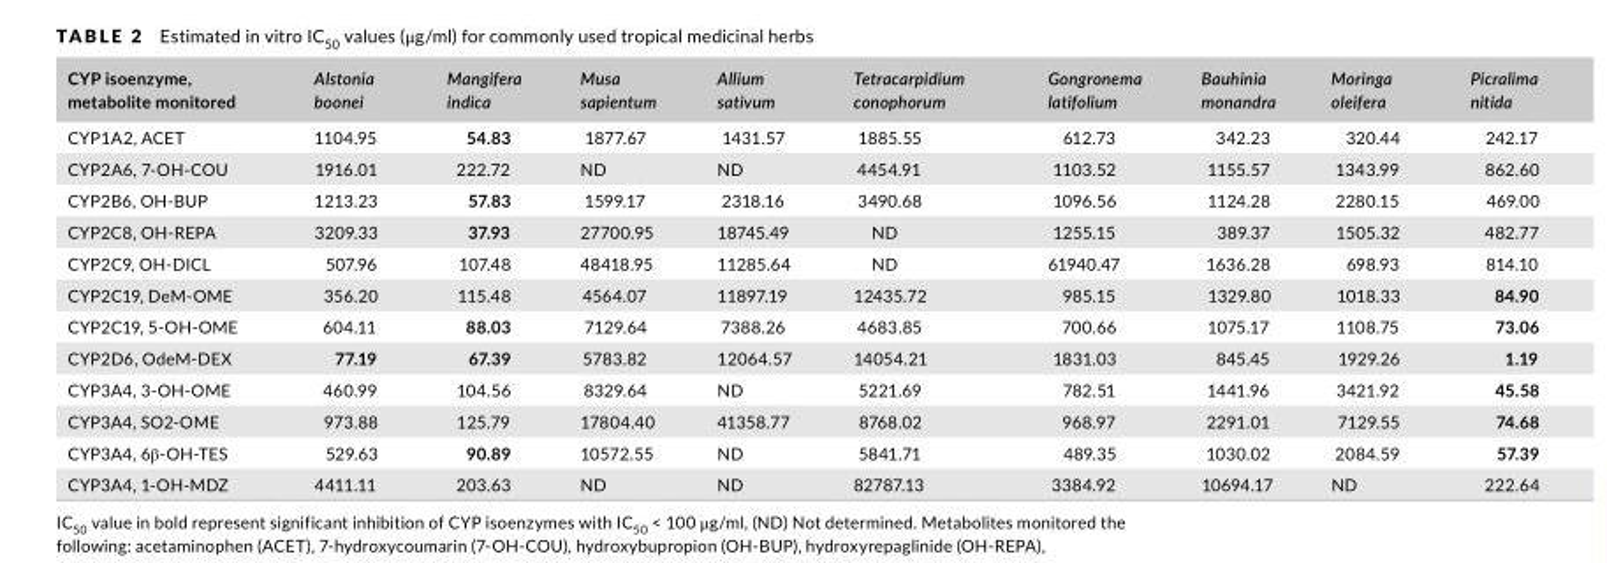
<table><thead><tr><td>CYP isoenzyme, metabolite monitored</td><td>Alstonia boonei</td><td>Mangifera indica</td><td>Musa sapientum</td><td>Allium sativum</td><td>Tetracarpidium conophorum</td><td>Gongronema latifolium</td><td>Bauhinia monandra</td><td>Moringa oleifera</td><td>Picralima nitida</td></tr></thead><tbody><tr><td>CYP1A2, ACET</td><td>1104.95</td><td>54.83</td><td>1877.67</td><td>1431.57</td><td>1885.55</td><td>612.73</td><td>342.23</td><td>320.44</td><td>242.17</td></tr><tr><td>CYP2A6, 7- OH- COU</td><td>1916.01</td><td>222.72</td><td>ND</td><td>ND</td><td>4454.91</td><td>1103.52</td><td>1155.57</td><td>1343.99</td><td>862.60</td></tr><tr><td>CYP2B6, OH- BUP</td><td>1213.23</td><td>57.83</td><td>1599.17</td><td>2318.16</td><td>3490.68</td><td>1096.56</td><td>1124.28</td><td>2280.15</td><td>469.00</td></tr><tr><td>CYP2C8, OH- REPA</td><td>3209.33</td><td>37.93</td><td>27700.95</td><td>18745.49</td><td>ND</td><td>1255.15</td><td>389.37</td><td>1505.32</td><td>482.77</td></tr><tr><td>CYP2C9, OH- DICL</td><td>507.96</td><td>107.48</td><td>48418.95</td><td>11285.64</td><td>ND</td><td>61940.47</td><td>1636.28</td><td>698.93</td><td>814.10</td></tr><tr><td>CYP2C19, DeM- OME</td><td>356.20</td><td>115.48</td><td>4564.07</td><td>11897.19</td><td>12435.72</td><td>985.15</td><td>1329.80</td><td>1018.33</td><td>84.90</td></tr><tr><td>CYP2C19, 5- OH- OME</td><td>604.11</td><td>88.03</td><td>7129.64</td><td>7388.26</td><td>4683.85</td><td>700.66</td><td>1075.17</td><td>1108.75</td><td>73.06</td></tr><tr><td>CYP2D6, OdeM- DEX</td><td>77.19</td><td>67.39</td><td>5783.82</td><td>12064.57</td><td>14054.21</td><td>1831.03</td><td>845.45</td><td>1929.26</td><td>1.19</td></tr><tr><td>CYP3A4, 3- OH- OME</td><td>460.99</td><td>104.56</td><td>8329.64</td><td>ND</td><td>5221.69</td><td>782.51</td><td>1441.96</td><td>3421.92</td><td>45.58</td></tr><tr><td>CYP3A4, SO2- OME</td><td>973.88</td><td>125.79</td><td>17804.40</td><td>41358.77</td><td>8768.02</td><td>968.97</td><td>2291.01</td><td>7129.55</td><td>74.68</td></tr><tr><td>CYP3A4, 6β- OH- TES</td><td>529.63</td><td>90.89</td><td>10572.55</td><td>ND</td><td>5841.71</td><td>489.35</td><td>1030.02</td><td>2084.59</td><td>57.39</td></tr><tr><td>CYP3A4, 1- OH- MDZ</td><td>4411.11</td><td>203.63</td><td>ND</td><td>ND</td><td>82787.13</td><td>3384.92</td><td>10694.17</td><td>ND</td><td>222.64</td></tr></tbody></table>